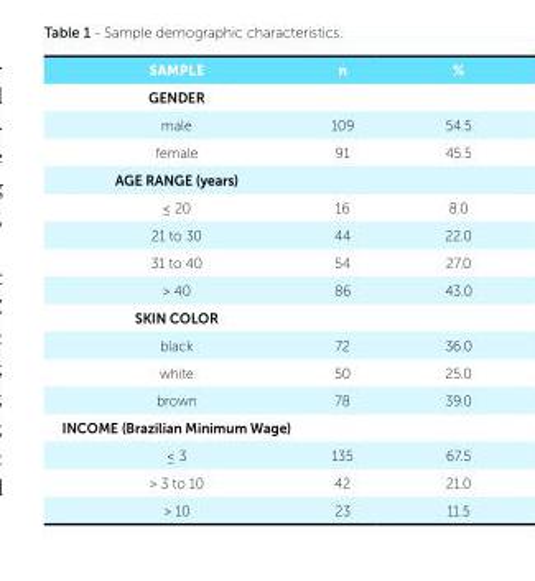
<table><tbody><tr><td>SAMPLE</td><td>n</td><td>%</td></tr><tr><td colspan="3">GENDER</td></tr><tr><td>male</td><td>109</td><td>54.5</td></tr><tr><td>female</td><td>91</td><td>45.5</td></tr><tr><td colspan="3">AGE RANGE (years)</td></tr><tr><td>≤ 20</td><td>16</td><td>8.0</td></tr><tr><td>21 to 30</td><td>44</td><td>22.0</td></tr><tr><td>31 to 40</td><td>54</td><td>27.0</td></tr><tr><td>&gt; 40</td><td>86</td><td>43.0</td></tr><tr><td colspan="3">SKIN COLOR</td></tr><tr><td>black</td><td>72</td><td>36.0</td></tr><tr><td>white</td><td>50</td><td>25.0</td></tr><tr><td>brown</td><td>78</td><td>39.0</td></tr><tr><td colspan="3">INCOME (Brazilian Minimum Wage)</td></tr><tr><td>≤ 3</td><td>135</td><td>67.5</td></tr><tr><td>&gt; 3 to 10</td><td>42</td><td>21.0</td></tr><tr><td>&gt; 10</td><td>23</td><td>11.5</td></tr></tbody></table>